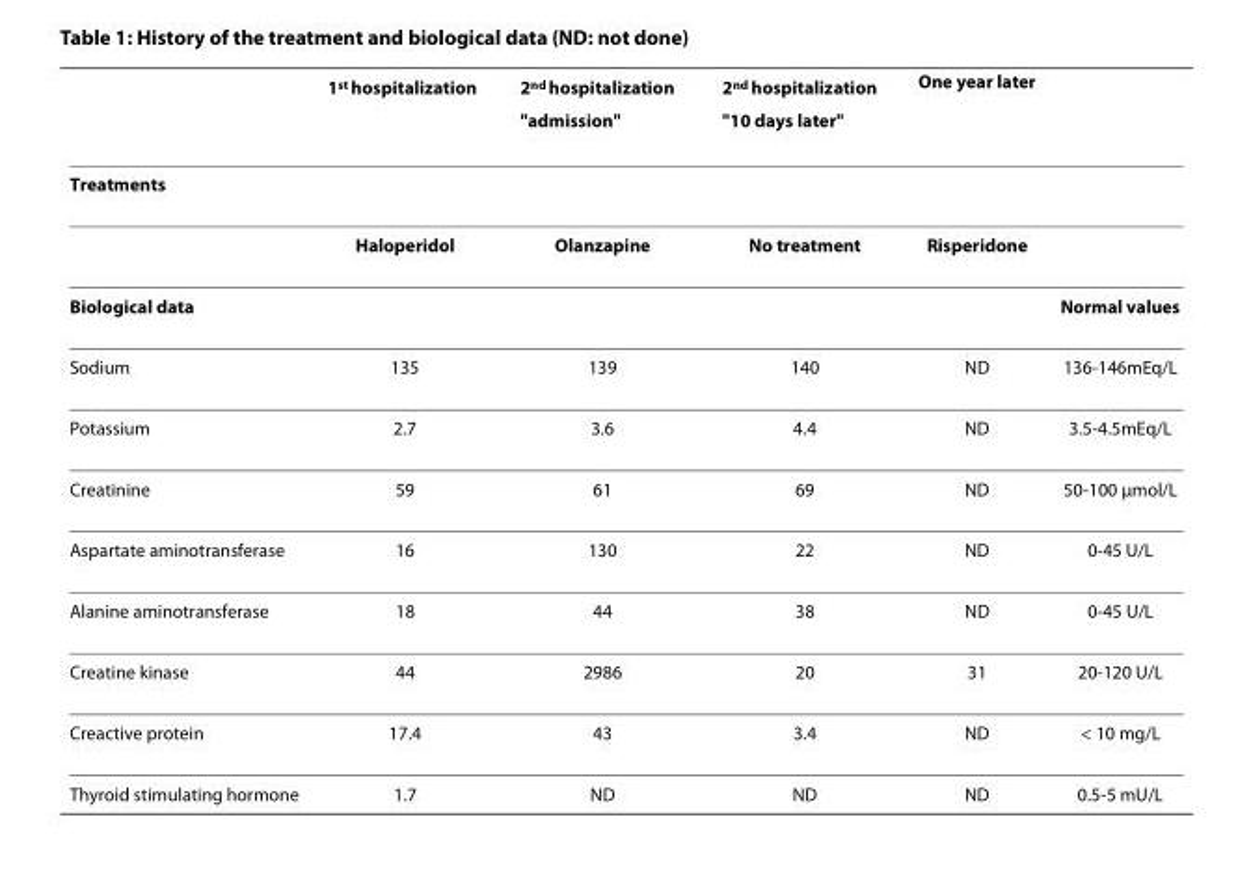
<table><thead><tr><td></td><td>1<sup>st</sup> hospitalization</td><td>2<sup>nd</sup> hospitalization &quot;admission&quot;</td><td>2<sup>nd</sup> hospitalization &quot;10 days later&quot;</td><td>One year later</td><td></td></tr></thead><tbody><tr><td colspan="6">Treatments</td></tr><tr><td></td><td>Haloperidol</td><td>Olanzapine</td><td>No treatment</td><td>Risperidone</td><td></td></tr><tr><td colspan="5">Biological data</td><td>Normal values</td></tr><tr><td>Sodium</td><td>135</td><td>139</td><td>140</td><td>ND</td><td>136-146mEq/L</td></tr><tr><td>Potassium</td><td>2.7</td><td>3.6</td><td>4.4</td><td>ND</td><td>3.5-4.5mEq/L</td></tr><tr><td>Creatinine</td><td>59</td><td>61</td><td>69</td><td>ND</td><td>50-100 μmol/L</td></tr><tr><td>Aspartate aminotransferase</td><td>16</td><td>130</td><td>22</td><td>ND</td><td>0-45 U/L</td></tr><tr><td>Alanine aminotransferase</td><td>18</td><td>44</td><td>38</td><td>ND</td><td>0-45 U/L</td></tr><tr><td>Creatine kinase</td><td>44</td><td>2986</td><td>20</td><td>31</td><td>20-120 U/L</td></tr><tr><td>Creactive protein</td><td>17.4</td><td>43</td><td>3.4</td><td>ND</td><td>&lt; 10 mg/L</td></tr><tr><td>Thyroid stimulating hormone</td><td>1.7</td><td>ND</td><td>ND</td><td>ND</td><td>0.5-5 mU/L</td></tr></tbody></table>